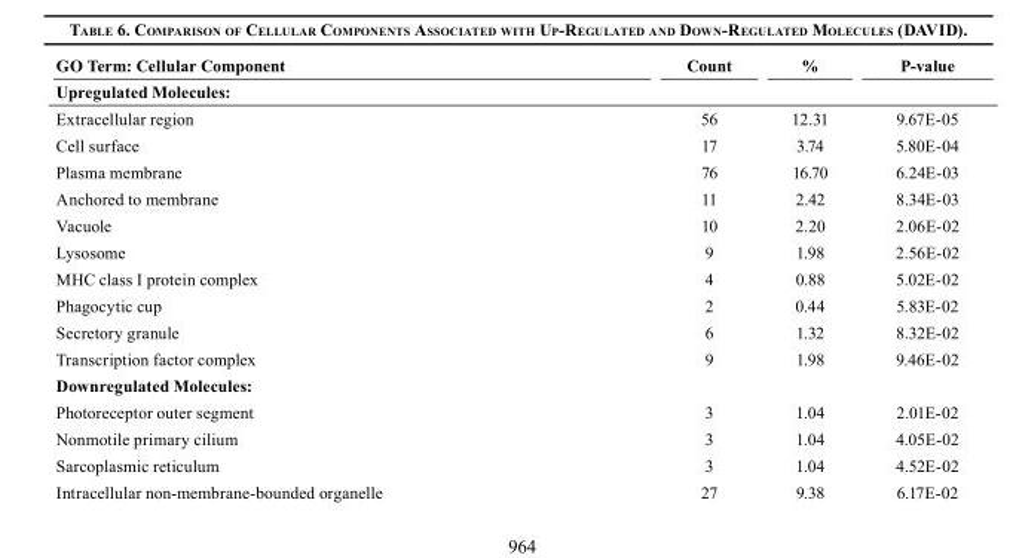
<table><thead><tr><td rowspan="2">GO Term: Cellular Component Upregulated Molecules:</td><td rowspan="2">Count</td><td rowspan="2">%</td><td rowspan="2">P-value</td></tr><tr></tr></thead><tbody><tr><td>Extracellular region</td><td>56</td><td>12.31</td><td>9.67E-05</td></tr><tr><td>Cell surface</td><td>17</td><td>3.74</td><td>5.80E-04</td></tr><tr><td>Plasma membrane</td><td>76</td><td>16.70</td><td>6.24E-03</td></tr><tr><td>Anchored to membrane</td><td>11</td><td>2.42</td><td>8.34E-03</td></tr><tr><td>Vacuole</td><td>10</td><td>2.20</td><td>2.06E-02</td></tr><tr><td>Lysosome</td><td>9</td><td>1.98</td><td>2.56E-02</td></tr><tr><td>MHC class I protein complex</td><td>4</td><td>0.88</td><td>5.02E-02</td></tr><tr><td>Phagocytic cup</td><td>2</td><td>0.44</td><td>5.83E-02</td></tr><tr><td>Secretory granule</td><td>6</td><td>1.32</td><td>8.32E-02</td></tr><tr><td>Transcription factor complex</td><td>9</td><td>1.98</td><td>9.46E-02</td></tr><tr><td colspan="4">Downregulated Molecules:</td></tr><tr><td>Photoreceptor outer segment</td><td>3</td><td>1.04</td><td>2.01E-02</td></tr><tr><td>Nonmotile primary cilium</td><td>3</td><td>1.04</td><td>4.05E-02</td></tr><tr><td>Sarcoplasmic reticulum</td><td>3</td><td>1.04</td><td>4.52E-02</td></tr><tr><td>Intracellular non-membrane-bounded organelle</td><td>27</td><td>9.38</td><td>6.17E-02</td></tr></tbody></table>